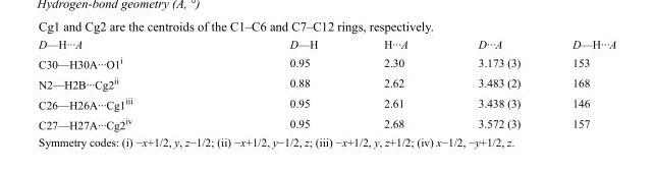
<table><tbody><tr><td>D—H···A</td><td>D—H</td><td>H···A</td><td>D···A</td><td>D—H···A</td></tr><tr><td>C30—H30A···O1<sup>i</sup></td><td>0.95</td><td>2.30</td><td>3.173 (3)</td><td>153</td></tr><tr><td>N2—H2B···Cg2<sup>ii</sup></td><td>0.88</td><td>2.62</td><td>3.483 (2)</td><td>168</td></tr><tr><td>C26—H26A···Cg1<sup>iii</sup></td><td>0.95</td><td>2.61</td><td>3.438 (3)</td><td>146</td></tr><tr><td>C27—H27A···Cg2<sup>iv</sup></td><td>0.95</td><td>2.68</td><td>3.572 (3)</td><td>157</td></tr></tbody></table>